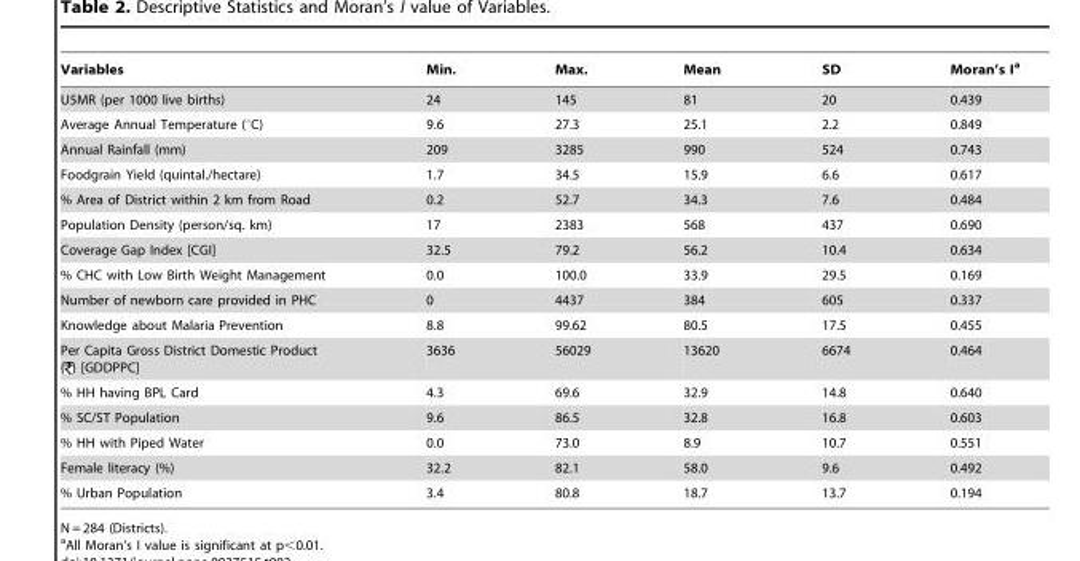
<table><thead><tr><td>Variables</td><td>Min.</td><td>Max.</td><td>Mean</td><td>SD</td><td>Moran’s I<sup>a</sup></td></tr></thead><tbody><tr><td>U5MR (per 1000 live births)</td><td>24</td><td>145</td><td>81</td><td>20</td><td>0.439</td></tr><tr><td>Average Annual Temperature (°C)</td><td>9.6</td><td>27.3</td><td>25.1</td><td>2.2</td><td>0.849</td></tr><tr><td>Annual Rainfall (mm)</td><td>209</td><td>3285</td><td>990</td><td>524</td><td>0.743</td></tr><tr><td>Foodgrain Yield (quintal./hectare)</td><td>1.7</td><td>34.5</td><td>15.9</td><td>6.6</td><td>0.617</td></tr><tr><td>% Area of District within 2 km from Road</td><td>0.2</td><td>52.7</td><td>34.3</td><td>7.6</td><td>0.484</td></tr><tr><td>Population Density (person/sq. km)</td><td>17</td><td>2383</td><td>568</td><td>437</td><td>0.690</td></tr><tr><td>Coverage Gap Index [CGI]</td><td>32.5</td><td>79.2</td><td>56.2</td><td>10.4</td><td>0.634</td></tr><tr><td>% CHC with Low Birth Weight Management</td><td>0.0</td><td>100.0</td><td>33.9</td><td>29.5</td><td>0.169</td></tr><tr><td>Number of newborn care provided in PHC</td><td>0</td><td>4437</td><td>384</td><td>605</td><td>0.337</td></tr><tr><td>Knowledge about Malaria Prevention</td><td>8.8</td><td>99.62</td><td>80.5</td><td>17.5</td><td>0.455</td></tr><tr><td>Per Capita Gross District Domestic Product ( ) [GDDPPC]</td><td>3636</td><td>56029</td><td>13620</td><td>6674</td><td>0.464</td></tr><tr><td>% HH having BPL Card</td><td>4.3</td><td>69.6</td><td>32.9</td><td>14.8</td><td>0.640</td></tr><tr><td>% SC/ST Population</td><td>9.6</td><td>86.5</td><td>32.8</td><td>16.8</td><td>0.603</td></tr><tr><td>% HH with Piped Water</td><td>0.0</td><td>73.0</td><td>8.9</td><td>10.7</td><td>0.551</td></tr><tr><td>Female literacy (%)</td><td>32.2</td><td>82.1</td><td>58.0</td><td>9.6</td><td>0.492</td></tr><tr><td>% Urban Population</td><td>3.4</td><td>80.8</td><td>18.7</td><td>13.7</td><td>0.194</td></tr></tbody></table>